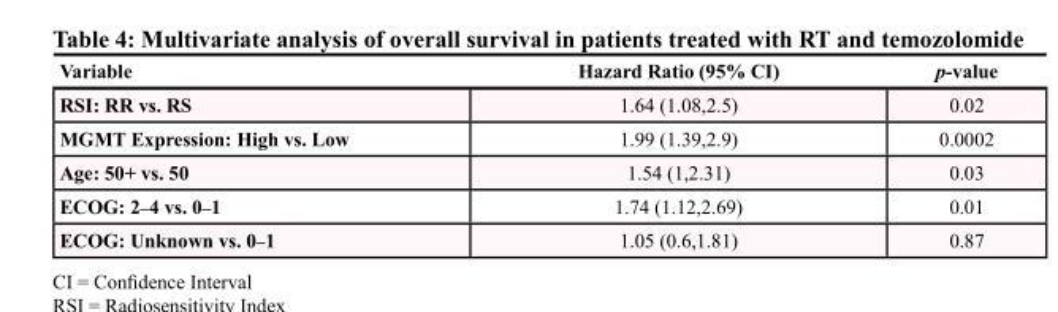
<table><thead><tr><td>Variable</td><td>Hazard Ratio (95% CI)</td><td>p-value</td></tr></thead><tbody><tr><td>RSI: RR vs. RS</td><td>1.64 (1.08,2.5)</td><td>0.02</td></tr><tr><td>MGMT Expression: High vs. Low</td><td>1.99 (1.39,2.9)</td><td>0.0002</td></tr><tr><td>Age: 50+ vs. 50</td><td>1.54 (1,2.31)</td><td>0.03</td></tr><tr><td>ECOG: 2–4 vs. 0–1</td><td>1.74 (1.12,2.69)</td><td>0.01</td></tr><tr><td>ECOG: Unknown vs. 0–1</td><td>1.05 (0.6,1.81)</td><td>0.87</td></tr></tbody></table>